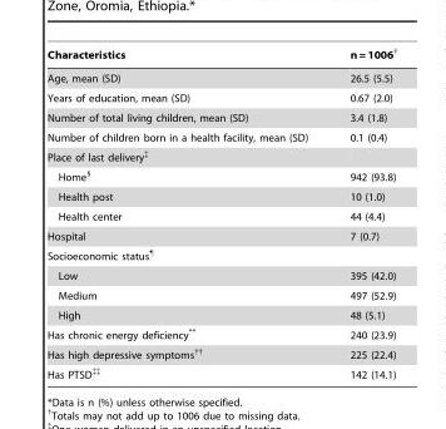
<table><thead><tr><td>Characteristics</td><td>n = 1006†</td></tr></thead><tbody><tr><td>Age, mean (SD)</td><td>26.5 (5.5)</td></tr><tr><td>Years of education, mean (SD)</td><td>0.67 (2.0)</td></tr><tr><td>Number of total living children, mean (SD)</td><td>3.4 (1.8)</td></tr><tr><td>Number of children born in a health facility, mean (SD)</td><td>0.1 (0.4)</td></tr><tr><td colspan="2">Place of last delivery‡</td></tr><tr><td>Home§</td><td>942 (93.8)</td></tr><tr><td>Health post</td><td>10 (1.0)</td></tr><tr><td>Health center</td><td>44 (4.4)</td></tr><tr><td>Hospital</td><td>7 (0.7)</td></tr><tr><td colspan="2">Socioeconomic status¶</td></tr><tr><td>Low</td><td>395 (42.0)</td></tr><tr><td>Medium</td><td>497 (52.9)</td></tr><tr><td>High</td><td>48 (5.1)</td></tr><tr><td>Has chronic energy deficiency**</td><td>240 (23.9)</td></tr><tr><td>Has high depressive symptoms††</td><td>225 (22.4)</td></tr><tr><td>Has PTSD‡‡</td><td>142 (14.1)</td></tr></tbody></table>